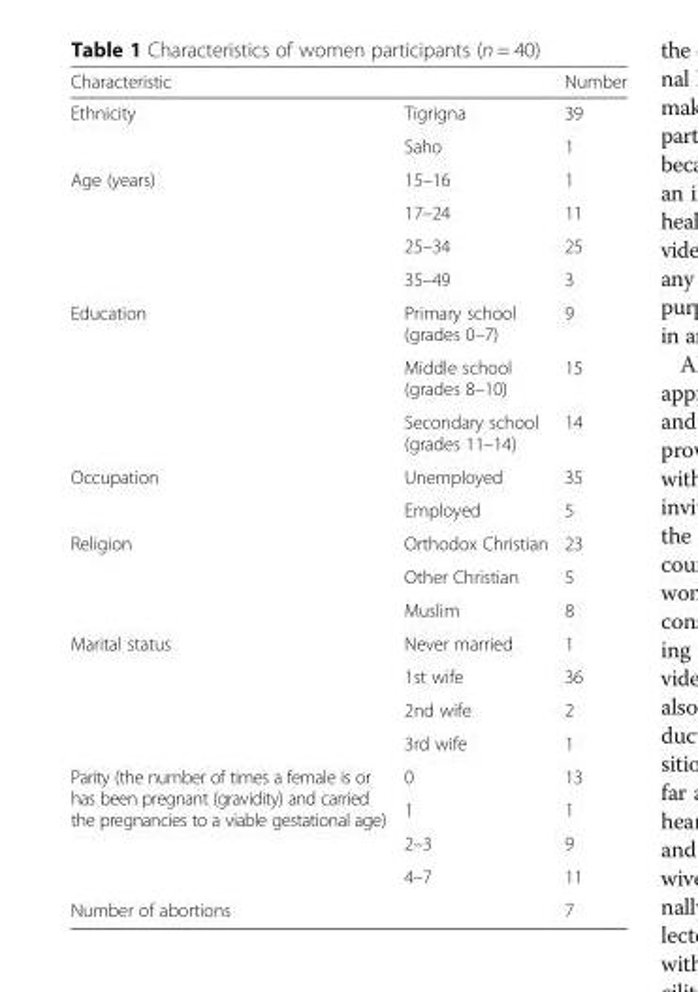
<table><thead><tr><td>Characteristic</td><td></td><td>Number</td></tr></thead><tbody><tr><td rowspan="2">Ethnicity</td><td>Tigrigna</td><td>39</td></tr><tr><td>Saho</td><td>1</td></tr><tr><td rowspan="4">Age (years)</td><td>15–16</td><td>1</td></tr><tr><td>17–24</td><td>11</td></tr><tr><td>25–34</td><td>25</td></tr><tr><td>35–49</td><td>3</td></tr><tr><td rowspan="3">Education</td><td>Primary school (grades 0–7)</td><td>9</td></tr><tr><td>Middle school (grades 8–10)</td><td>15</td></tr><tr><td>Secondary school (grades 11–14)</td><td>14</td></tr><tr><td rowspan="2">Occupation</td><td>Unemployed</td><td>35</td></tr><tr><td>Employed</td><td>5</td></tr><tr><td rowspan="3">Religion</td><td>Orthodox Christian</td><td>23</td></tr><tr><td>Other Christian</td><td>5</td></tr><tr><td>Muslim</td><td>8</td></tr><tr><td rowspan="4">Marital status</td><td>Never married</td><td>1</td></tr><tr><td>1st wife</td><td>36</td></tr><tr><td>2nd wife</td><td>2</td></tr><tr><td>3rd wife</td><td>1</td></tr><tr><td rowspan="4">Parity (the number of times a female is or has been pregnant (gravidity) and carried the pregnancies to a viable gestational age)</td><td>0</td><td>13</td></tr><tr><td>1</td><td>1</td></tr><tr><td>2–3</td><td>9</td></tr><tr><td>4–7</td><td>11</td></tr><tr><td>Number of abortions</td><td></td><td>7</td></tr></tbody></table>